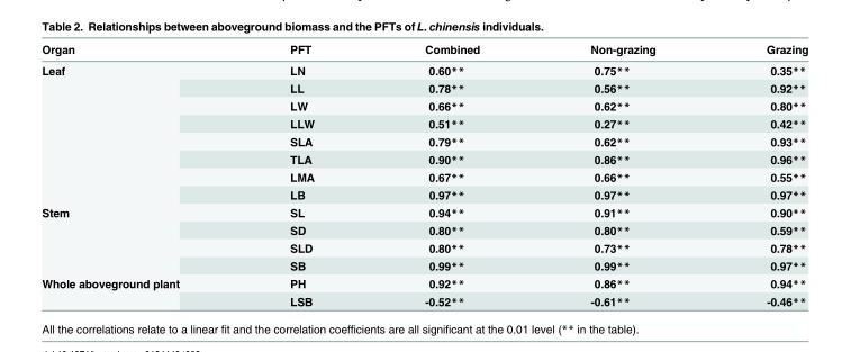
<table><thead><tr><td>Organ</td><td>PFT</td><td>Combined</td><td>Non-grazing</td><td>Grazing</td></tr></thead><tbody><tr><td rowspan="8">Leaf</td><td>LN</td><td>0.60**</td><td>0.75**</td><td>0.35**</td></tr><tr><td>LL</td><td>0.78**</td><td>0.56**</td><td>0.92**</td></tr><tr><td>LW</td><td>0.66**</td><td>0.62**</td><td>0.80**</td></tr><tr><td>LLW</td><td>0.51**</td><td>0.27**</td><td>0.42**</td></tr><tr><td>SLA</td><td>0.79**</td><td>0.62**</td><td>0.93**</td></tr><tr><td>TLA</td><td>0.90**</td><td>0.86**</td><td>0.96**</td></tr><tr><td>LMA</td><td>0.67**</td><td>0.66**</td><td>0.55**</td></tr><tr><td>LB</td><td>0.97**</td><td>0.97**</td><td>0.97**</td></tr><tr><td rowspan="4">Stem</td><td>SL</td><td>0.94**</td><td>0.91**</td><td>0.90**</td></tr><tr><td>SD</td><td>0.80**</td><td>0.80**</td><td>0.59**</td></tr><tr><td>SLD</td><td>0.80**</td><td>0.73**</td><td>0.78**</td></tr><tr><td>SB</td><td>0.99**</td><td>0.99**</td><td>0.97**</td></tr><tr><td rowspan="2">Whole aboveground plant</td><td>PH</td><td>0.92**</td><td>0.86**</td><td>0.94**</td></tr><tr><td>LSB</td><td>-0.52**</td><td>-0.61**</td><td>-0.46**</td></tr></tbody></table>